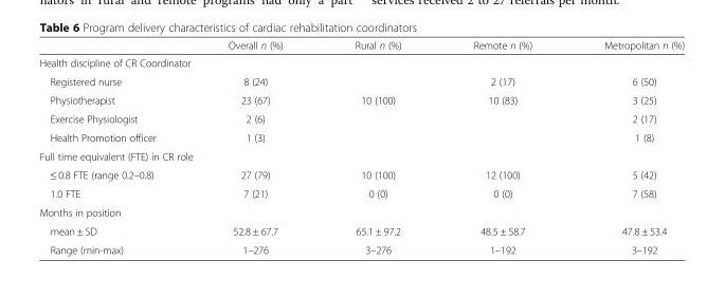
<table><thead><tr><td></td><td>Overall n (%)</td><td>Rural n (%)</td><td>Remote n (%)</td><td>Metropolitan n (%)</td></tr></thead><tbody><tr><td colspan="5">Health discipline of CR Coordinator</td></tr><tr><td>Registered nurse</td><td>8 (24)</td><td></td><td>2 (17)</td><td>6 (50)</td></tr><tr><td>Physiotherapist</td><td>23 (67)</td><td>10 (100)</td><td>10 (83)</td><td>3 (25)</td></tr><tr><td>Exercise Physiologist</td><td>2 (6)</td><td></td><td></td><td>2 (17)</td></tr><tr><td>Health Promotion officer</td><td>1 (3)</td><td></td><td></td><td>1 (8)</td></tr><tr><td colspan="5">Full time equivalent (FTE) in CR role</td></tr><tr><td>≤ 0.8 FTE (range 0.2–0.8)</td><td>27 (79)</td><td>10 (100)</td><td>12 (100)</td><td>5 (42)</td></tr><tr><td>1.0 FTE</td><td>7 (21)</td><td>0 (0)</td><td>0 (0)</td><td>7 (58)</td></tr><tr><td colspan="5">Months in position</td></tr><tr><td>mean ± SD</td><td>52.8 ± 67.7</td><td>65.1 ± 97.2</td><td>48.5 ± 58.7</td><td>47.8 ± 53.4</td></tr><tr><td>Range (min-max)</td><td>1–276</td><td>3–276</td><td>1–192</td><td>3–192</td></tr></tbody></table>